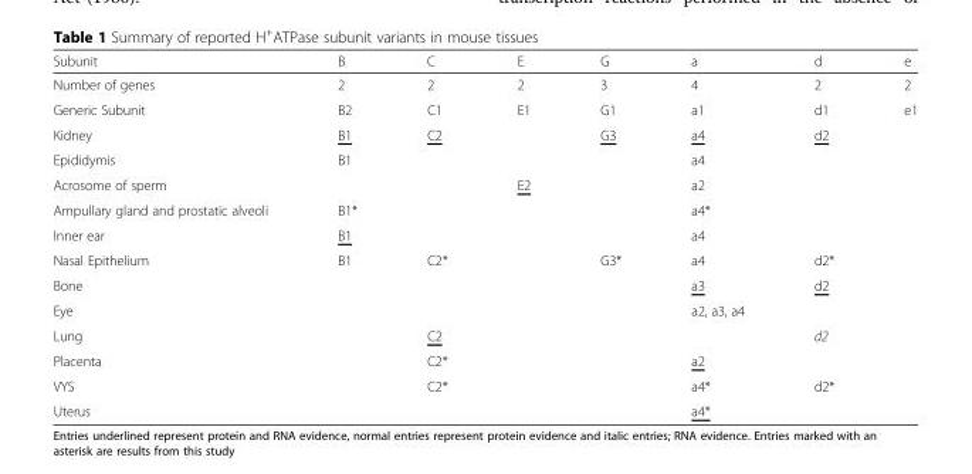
<table><thead><tr><td>Subunit</td><td>B</td><td>C</td><td>E</td><td>G</td><td>a</td><td>d</td><td>e</td></tr></thead><tbody><tr><td>Number of genes</td><td>2</td><td>2</td><td>2</td><td>3</td><td>4</td><td>2</td><td>2</td></tr><tr><td>Generic Subunit</td><td>B2</td><td>C1</td><td>E1</td><td>G1</td><td>a1</td><td>d1</td><td>e1</td></tr><tr><td>Kidney</td><td>B1</td><td>C2</td><td></td><td>G3</td><td>a4</td><td>d2</td><td></td></tr><tr><td>Epididymis</td><td>B1</td><td></td><td></td><td></td><td>a4</td><td></td><td></td></tr><tr><td>Acrosome of sperm</td><td></td><td></td><td>E2</td><td></td><td>a2</td><td></td><td></td></tr><tr><td>Ampullary gland and prostatic alveoli</td><td>B1*</td><td></td><td></td><td></td><td>a4*</td><td></td><td></td></tr><tr><td>Inner ear</td><td>B1</td><td></td><td></td><td></td><td>a4</td><td></td><td></td></tr><tr><td>Nasal Epithelium</td><td>B1</td><td>C2*</td><td></td><td>G3*</td><td>a4</td><td>d2*</td><td></td></tr><tr><td>Bone</td><td></td><td></td><td></td><td></td><td>a3</td><td>d2</td><td></td></tr><tr><td>Eye</td><td></td><td></td><td></td><td></td><td>a2, a3, a4</td><td></td><td></td></tr><tr><td>Lung</td><td></td><td>C2</td><td></td><td></td><td></td><td>d2</td><td></td></tr><tr><td>Placenta</td><td></td><td>C2*</td><td></td><td></td><td>a2</td><td></td><td></td></tr><tr><td>VYS</td><td></td><td>C2*</td><td></td><td></td><td>a4*</td><td>d2*</td><td></td></tr><tr><td>Uterus</td><td></td><td></td><td></td><td></td><td>a4*</td><td></td><td></td></tr></tbody></table>